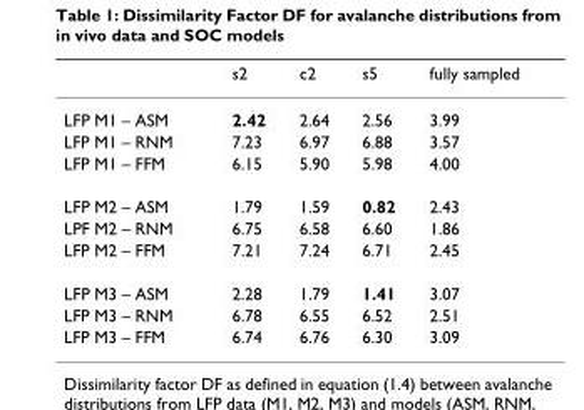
<table><thead><tr><td></td><td>s2</td><td>c2</td><td>s5</td><td>fully sampled</td></tr></thead><tbody><tr><td>LFP M1 – ASM</td><td>2.42</td><td>2.64</td><td>2.56</td><td>3.99</td></tr><tr><td>LFP M1 – RNM</td><td>7.23</td><td>6.97</td><td>6.88</td><td>3.57</td></tr><tr><td>LFP M1 – FFM</td><td>6.15</td><td>5.90</td><td>5.98</td><td>4.00</td></tr><tr><td>LFP M2 – ASM</td><td>1.79</td><td>1.59</td><td>0.82</td><td>2.43</td></tr><tr><td>LPF M2 – RNM</td><td>6.75</td><td>6.58</td><td>6.60</td><td>1.86</td></tr><tr><td>LFP M2 – FFM</td><td>7.21</td><td>7.24</td><td>6.71</td><td>2.45</td></tr><tr><td>LFP M3 – ASM</td><td>2.28</td><td>1.79</td><td>1.41</td><td>3.07</td></tr><tr><td>LFP M3 – RNM</td><td>6.78</td><td>6.55</td><td>6.52</td><td>2.51</td></tr><tr><td>LFP M3 – FFM</td><td>6.74</td><td>6.76</td><td>6.30</td><td>3.09</td></tr></tbody></table>